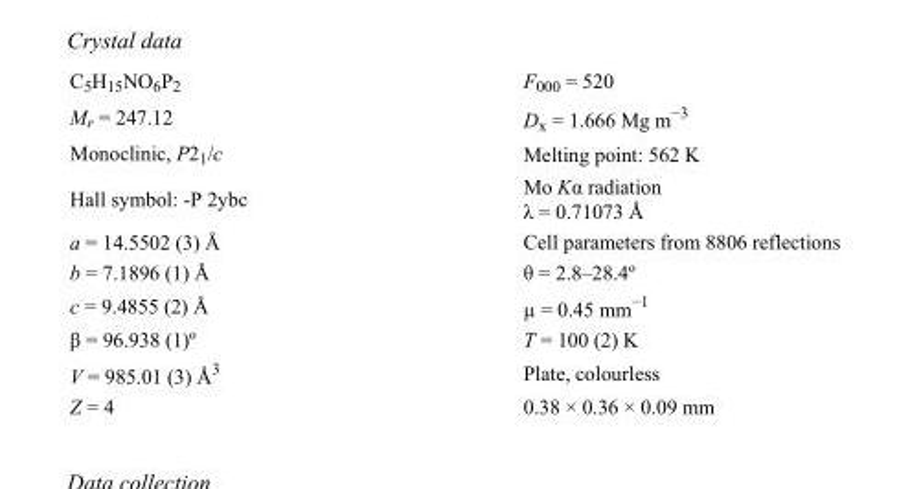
<table><tbody><tr><td>C<sub>5</sub>H<sub>15</sub>NO<sub>6</sub>P<sub>2</sub></td><td>F<sub>000</sub> = 520</td></tr><tr><td>M<sub>r</sub> = 247.12</td><td>D<sub>x</sub> = 1.666 Mg m<sup>−3</sup></td></tr><tr><td>Monoclinic, P2<sub>1</sub>/c</td><td>Melting point: 562 K</td></tr><tr><td>Hall symbol: -P 2ybc</td><td>Mo Kα radiation λ = 0.71073 Å</td></tr><tr><td>a = 14.5502 (3) Å</td><td>Cell parameters from 8806 reflections</td></tr><tr><td>b = 7.1896 (1) Å</td><td>θ = 2.8–28.4º</td></tr><tr><td>c = 9.4855 (2) Å</td><td>µ = 0.45 mm<sup>−1</sup></td></tr><tr><td>β = 96.938 (1)º</td><td>T = 100 (2) K</td></tr><tr><td>V = 985.01 (3) Å<sup>3</sup></td><td>Plate, colourless</td></tr><tr><td>Z = 4</td><td>0.38 × 0.36 × 0.09 mm</td></tr></tbody></table>